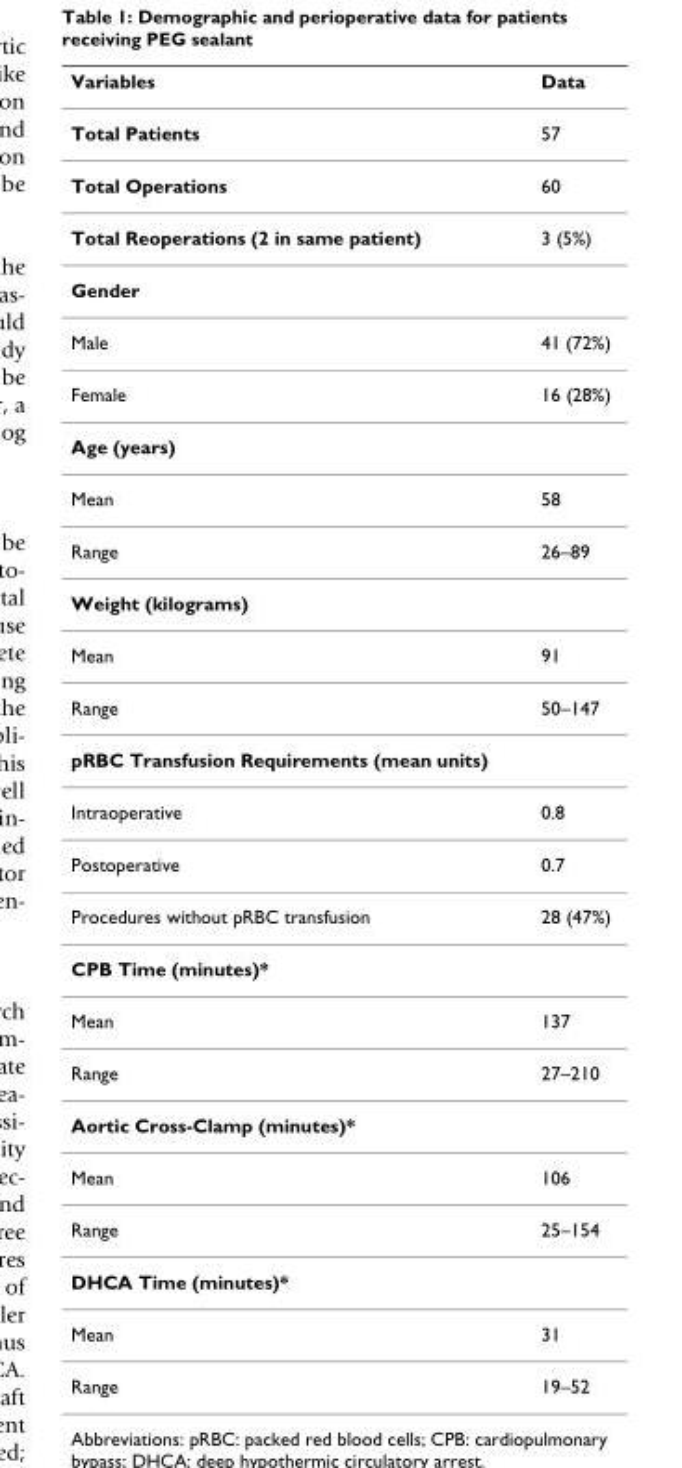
<table><thead><tr><td>Variables</td><td>Data</td></tr></thead><tbody><tr><td>Total Patients</td><td>57</td></tr><tr><td>Total Operations</td><td>60</td></tr><tr><td>Total Reoperations (2 in same patient)</td><td>3 (5%)</td></tr><tr><td colspan="2">Gender</td></tr><tr><td>Male</td><td>41 (72%)</td></tr><tr><td>Female</td><td>16 (28%)</td></tr><tr><td colspan="2">Age (years)</td></tr><tr><td>Mean</td><td>58</td></tr><tr><td>Range</td><td>26–89</td></tr><tr><td colspan="2">Weight (kilograms)</td></tr><tr><td>Mean</td><td>91</td></tr><tr><td>Range</td><td>50–147</td></tr><tr><td colspan="2">pRBC Transfusion Requirements (mean units)</td></tr><tr><td>Intraoperative</td><td>0.8</td></tr><tr><td>Postoperative</td><td>0.7</td></tr><tr><td>Procedures without pRBC transfusion</td><td>28 (47%)</td></tr><tr><td colspan="2">CPB Time (minutes)*</td></tr><tr><td>Mean</td><td>137</td></tr><tr><td>Range</td><td>27–210</td></tr><tr><td colspan="2">Aortic Cross-Clamp (minutes)*</td></tr><tr><td>Mean</td><td>106</td></tr><tr><td>Range</td><td>25–154</td></tr><tr><td colspan="2">DHCA Time (minutes)*</td></tr><tr><td>Mean</td><td>31</td></tr><tr><td>Range</td><td>19–52</td></tr></tbody></table>